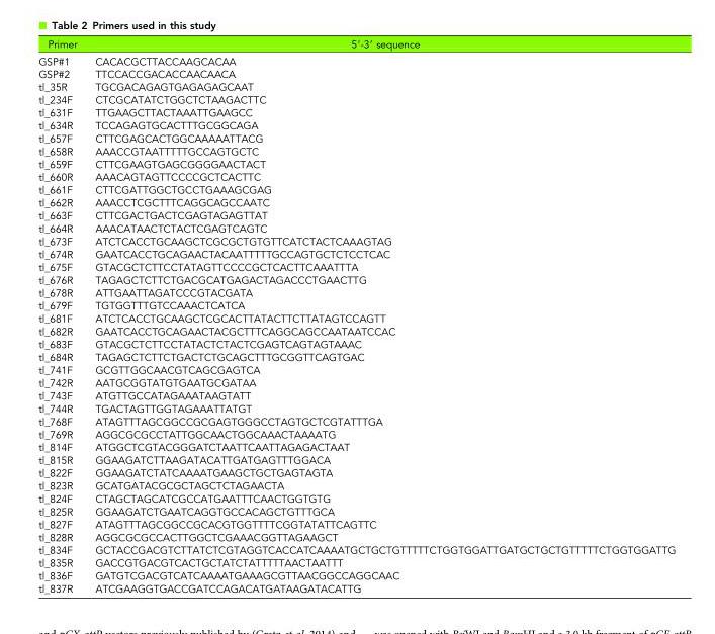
<table><thead><tr><td>Primer</td><td>5′-3′ sequence</td></tr></thead><tbody><tr><td>GSP#1</td><td>CACACGCTTACCAAGCACAA</td></tr><tr><td>GSP#2</td><td>TTCCACCGACACCAACAACA</td></tr><tr><td>tl_35R</td><td>TGCGACAGAGTGAGAGAGCAAT</td></tr><tr><td>tl_234F</td><td>CTCGCATATCTGGCTCTAAGACTTC</td></tr><tr><td>tl_631F</td><td>TTGAAGCTTACTAAATTGAAGCC</td></tr><tr><td>tl_634R</td><td>TCCAGAGTGCACTTTGCGGCAGA</td></tr><tr><td>tl_657F</td><td>CTTCGAGCACTGGCAAAAATTACG</td></tr><tr><td>tl_658R</td><td>AAACCGTAATTTTTGCCAGTGCTC</td></tr><tr><td>tl_659F</td><td>CTTCGAAGTGAGCGGGGAACTACT</td></tr><tr><td>tl_660R</td><td>AAACAGTAGTTCCCCGCTCACTTC</td></tr><tr><td>tl_661F</td><td>CTTCGATTGGCTGCCTGAAAGCGAG</td></tr><tr><td>tl_662R</td><td>AAACCTCGCTTTCAGGCAGCCAATC</td></tr><tr><td>tl_663F</td><td>CTTCGACTGACTCGAGTAGAGTTAT</td></tr><tr><td>tl_664R</td><td>AAACATAACTCTACTCGAGTCAGTC</td></tr><tr><td>tl_673F</td><td>ATCTCACCTGCAAGCTCGCGCTGTGTTCATCTACTCAAAGTAG</td></tr><tr><td>tl_674R</td><td>GAATCACCTGCAGAACTACAATTTTTGCCAGTGCTCTCCTCAC</td></tr><tr><td>tl_675F</td><td>GTACGCTCTTCCTATAGTTCCCCGCTCACTTCAAATTTA</td></tr><tr><td>tl_676R</td><td>TAGAGCTCTTCTGACGCATGAGACTAGACCCTGAACTTG</td></tr><tr><td>tl_678R</td><td>ATTGAATTAGATCCCGTACGATA</td></tr><tr><td>tl_679F</td><td>TGTGGTTTGTCCAAACTCATCA</td></tr><tr><td>tl_681F</td><td>ATCTCACCTGCAAGCTCGCACTTATACTTCTTATAGTCCAGTT</td></tr><tr><td>tl_682R</td><td>GAATCACCTGCAGAACTACGCTTTCAGGCAGCCAATAATCCAC</td></tr><tr><td>tl_683F</td><td>GTACGCTCTTCCTATACTCTACTCGAGTCAGTAGTAAAC</td></tr><tr><td>tl_684R</td><td>TAGAGCTCTTCTGACTCTGCAGCTTTGCGGTTCAGTGAC</td></tr><tr><td>tl_741F</td><td>GCGTTGGCAACGTCAGCGAGTCA</td></tr><tr><td>tl_742R</td><td>AATGCGGTATGTGAATGCGATAA</td></tr><tr><td>tl_743F</td><td>ATGTTGCCATAGAAATAAGTATT</td></tr><tr><td>tl_744R</td><td>TGACTAGTTGGTAGAAATTATGT</td></tr><tr><td>tl_768F</td><td>ATAGTTTAGCGGCCGCGAGTGGGCCTAGTGCTCGTATTTGA</td></tr><tr><td>tl_769R</td><td>AGGCGCGCCTATTGGCAACTGGCAAACTAAAATG</td></tr><tr><td>tl_814F</td><td>ATGGCTCGTACGGGATCTAATTCAATTAGAGACTAAT</td></tr><tr><td>tl_815R</td><td>GGAAGATCTTAAGATACATTGATGAGTTTGGACA</td></tr><tr><td>tl_822F</td><td>GGAAGATCTATCAAAATGAAGCTGCTGAGTAGTA</td></tr><tr><td>tl_823R</td><td>GCATGATACGCGCTAGCTCTAGAACTA</td></tr><tr><td>tl_824F</td><td>CTAGCTAGCATCGCCATGAATTTCAACTGGTGTG</td></tr><tr><td>tl_825R</td><td>GGAAGATCTGAATCAGGTGCCACAGCTGTTTGCA</td></tr><tr><td>tl_827F</td><td>ATAGTTTAGCGGCCGCACGTGGTTTTCGGTATATTCAGTTC</td></tr><tr><td>tl_828R</td><td>AGGCGCGCCACTTGGCTCGAAACGGTTAGAAGCT</td></tr><tr><td>tl_834F</td><td>GCTACCGACGTCTTATCTCGTAGGTCACCATCAAAATGCTGCTGTTTTTCTGGTGGATTGATGCTGCTGTTTTTCTGGTGGATTG</td></tr><tr><td>tl_835R</td><td>GACCGTGACGTCACTGCTATCTATTTTTAACTAATTT</td></tr><tr><td>tl_836F</td><td>GATGTCGACGTCATCAAAATGAAAGCGTTAACGGCCAGGCAAC</td></tr><tr><td>tl_837R</td><td>ATCGAAGGTGACCGATCCAGACATGATAAGATACATTG</td></tr></tbody></table>